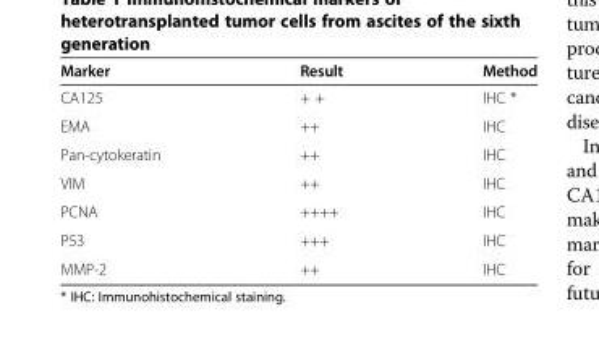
<table><thead><tr><td>Marker</td><td>Result</td><td>Method</td></tr></thead><tbody><tr><td>CA125</td><td>+ +</td><td>IHC *</td></tr><tr><td>EMA</td><td>++</td><td>IHC</td></tr><tr><td>Pan-cytokeratin</td><td>++</td><td>IHC</td></tr><tr><td>VIM</td><td>++</td><td>IHC</td></tr><tr><td>PCNA</td><td>++++</td><td>IHC</td></tr><tr><td>P53</td><td>+++</td><td>IHC</td></tr><tr><td>MMP-2</td><td>++</td><td>IHC</td></tr></tbody></table>